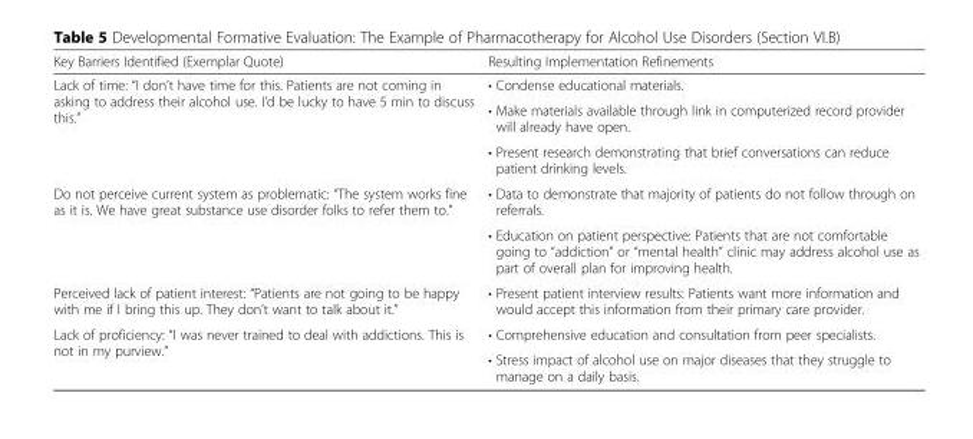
<table><thead><tr><td>Key Barriers Identified (Exemplar Quote)</td><td>Resulting Implementation Refinements</td></tr></thead><tbody><tr><td rowspan="3">Lack of time: “I don’t have time for this. Patients are not coming in asking to address their alcohol use. I’d be lucky to have 5 min to discuss this.”</td><td>• Condense educational materials.</td></tr><tr><td>• Make materials available through link in computerized record provider will already have open.</td></tr><tr><td>• Present research demonstrating that brief conversations can reduce patient drinking levels.</td></tr><tr><td rowspan="2">Do not perceive current system as problematic: “The system works fine as it is. We have great substance use disorder folks to refer them to.”</td><td>• Data to demonstrate that majority of patients do not follow through on referrals.</td></tr><tr><td>• Education on patient perspective: Patients that are not comfortable going to “addiction” or “mental health” clinic may address alcohol use as part of overall plan for improving health.</td></tr><tr><td>Perceived lack of patient interest: “Patients are not going to be happy with me if I bring this up. They don’t want to talk about it.”</td><td>• Present patient interview results: Patients want more information and would accept this information from their primary care provider.</td></tr><tr><td rowspan="2">Lack of proficiency: “I was never trained to deal with addictions. This is not in my purview.”</td><td>• Comprehensive education and consultation from peer specialists.</td></tr><tr><td>• Stress impact of alcohol use on major diseases that they struggle to manage on a daily basis.</td></tr></tbody></table>